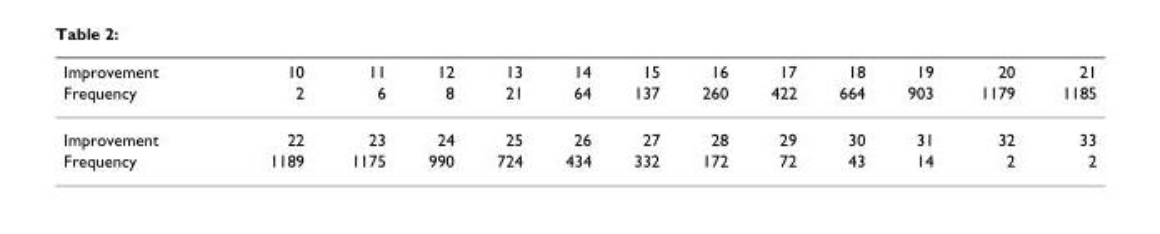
<table><thead><tr><td rowspan="2">Improvement Frequency</td><td rowspan="2">10 2</td><td rowspan="2">11 6</td><td rowspan="2">12 8</td><td rowspan="2">13 21</td><td rowspan="2">14 64</td><td rowspan="2">15 137</td><td rowspan="2">16 260</td><td rowspan="2">17 422</td><td rowspan="2">18 664</td><td rowspan="2">19 903</td><td rowspan="2">20 1179</td><td rowspan="2">21 1185</td></tr><tr></tr></thead><tbody><tr><td>Improvement</td><td>22</td><td>23</td><td>24</td><td>25</td><td>26</td><td>27</td><td>28</td><td>29</td><td>30</td><td>31</td><td>32</td><td>33</td></tr><tr><td>Frequency</td><td>1189</td><td>1175</td><td>990</td><td>724</td><td>434</td><td>332</td><td>172</td><td>72</td><td>43</td><td>14</td><td>2</td><td>2</td></tr></tbody></table>